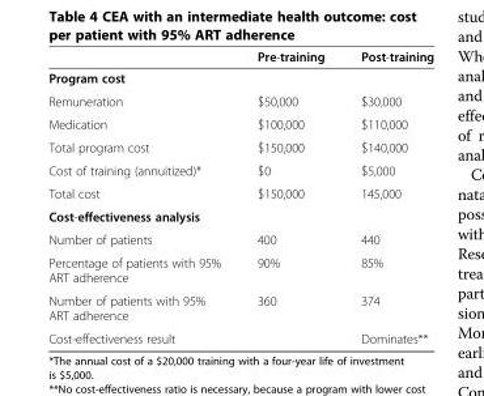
<table><thead><tr><td></td><td>Pre-training</td><td>Post-training</td></tr></thead><tbody><tr><td colspan="3">Program cost</td></tr><tr><td>Remuneration</td><td>$50,000</td><td>$30,000</td></tr><tr><td>Medication</td><td>$100,000</td><td>$110,000</td></tr><tr><td>Total program cost</td><td>$150,000</td><td>$140,000</td></tr><tr><td>Cost of training (annuitized)*</td><td>$0</td><td>$5,000</td></tr><tr><td>Total cost</td><td>$150,000</td><td>145,000</td></tr><tr><td colspan="3">Cost-effectiveness analysis</td></tr><tr><td>Number of patients</td><td>400</td><td>440</td></tr><tr><td>Percentage of patients with 95% ART adherence</td><td>90%</td><td>85%</td></tr><tr><td>Number of patients with 95% ART adherence</td><td>360</td><td>374</td></tr><tr><td>Cost-effectiveness result</td><td></td><td>Dominates**</td></tr></tbody></table>